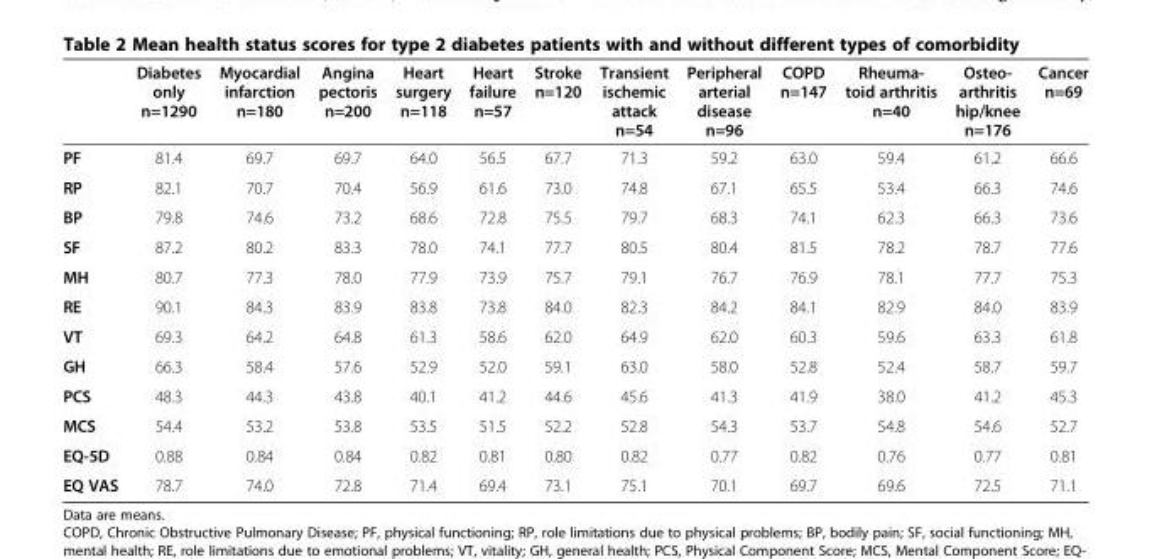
<table><thead><tr><td></td><td>Diabetes only n=1290</td><td>Myocardial infarction n=180</td><td>Angina pectoris n=200</td><td>Heart surgery n=118</td><td>Heart failure n=57</td><td>Stroke n=120</td><td>Transient ischemic attack n=54</td><td>Peripheral arterial disease n=96</td><td>COPD n=147</td><td>Rheuma- toid arthritis n=40</td><td>Osteo- arthritis hip/knee n=176</td><td>Cancer n=69</td></tr></thead><tbody><tr><td>PF</td><td>81.4</td><td>69.7</td><td>69.7</td><td>64.0</td><td>56.5</td><td>67.7</td><td>71.3</td><td>59.2</td><td>63.0</td><td>59.4</td><td>61.2</td><td>66.6</td></tr><tr><td>RP</td><td>82.1</td><td>70.7</td><td>70.4</td><td>56.9</td><td>61.6</td><td>73.0</td><td>74.8</td><td>67.1</td><td>65.5</td><td>53.4</td><td>66.3</td><td>74.6</td></tr><tr><td>BP</td><td>79.8</td><td>74.6</td><td>73.2</td><td>68.6</td><td>72.8</td><td>75.5</td><td>79.7</td><td>68.3</td><td>74.1</td><td>62.3</td><td>66.3</td><td>73.6</td></tr><tr><td>SF</td><td>87.2</td><td>80.2</td><td>83.3</td><td>78.0</td><td>74.1</td><td>77.7</td><td>80.5</td><td>80.4</td><td>81.5</td><td>78.2</td><td>78.7</td><td>77.6</td></tr><tr><td>MH</td><td>80.7</td><td>77.3</td><td>78.0</td><td>77.9</td><td>73.9</td><td>75.7</td><td>79.1</td><td>76.7</td><td>76.9</td><td>78.1</td><td>77.7</td><td>75.3</td></tr><tr><td>RE</td><td>90.1</td><td>84.3</td><td>83.9</td><td>83.8</td><td>73.8</td><td>84.0</td><td>82.3</td><td>84.2</td><td>84.1</td><td>82.9</td><td>84.0</td><td>83.9</td></tr><tr><td>VT</td><td>69.3</td><td>64.2</td><td>64.8</td><td>61.3</td><td>58.6</td><td>62.0</td><td>64.9</td><td>62.0</td><td>60.3</td><td>59.6</td><td>63.3</td><td>61.8</td></tr><tr><td>GH</td><td>66.3</td><td>58.4</td><td>57.6</td><td>52.9</td><td>52.0</td><td>59.1</td><td>63.0</td><td>58.0</td><td>52.8</td><td>52.4</td><td>58.7</td><td>59.7</td></tr><tr><td>PCS</td><td>48.3</td><td>44.3</td><td>43.8</td><td>40.1</td><td>41.2</td><td>44.6</td><td>45.6</td><td>41.3</td><td>41.9</td><td>38.0</td><td>41.2</td><td>45.3</td></tr><tr><td>MCS</td><td>54.4</td><td>53.2</td><td>53.8</td><td>53.5</td><td>51.5</td><td>52.2</td><td>52.8</td><td>54.3</td><td>53.7</td><td>54.8</td><td>54.6</td><td>52.7</td></tr><tr><td>EQ-5D</td><td>0.88</td><td>0.84</td><td>0.84</td><td>0.82</td><td>0.81</td><td>0.80</td><td>0.82</td><td>0.77</td><td>0.82</td><td>0.76</td><td>0.77</td><td>0.81</td></tr><tr><td>EQ VAS</td><td>78.7</td><td>74.0</td><td>72.8</td><td>71.4</td><td>69.4</td><td>73.1</td><td>75.1</td><td>70.1</td><td>69.7</td><td>69.6</td><td>72.5</td><td>71.1</td></tr></tbody></table>